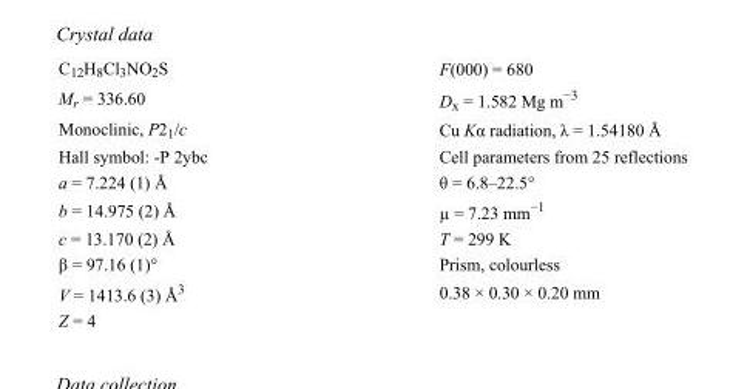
<table><tbody><tr><td>C<sub>12</sub>H<sub>8</sub>Cl<sub>3</sub>NO<sub>2</sub>S</td><td>F(000) = 680</td></tr><tr><td>M<sub>r</sub> = 336.60</td><td>D<sub>x</sub> = 1.582 Mg m<sup>−3</sup></td></tr><tr><td>Monoclinic, P2<sub>1</sub>/c</td><td>Cu Kα radiation, λ = 1.54180 Å</td></tr><tr><td>Hall symbol: -P 2ybc</td><td>Cell parameters from 25 reflections</td></tr><tr><td>a = 7.224 (1) Å</td><td>θ = 6.8–22.5°</td></tr><tr><td>b = 14.975 (2) Å</td><td>µ = 7.23 mm<sup>−1</sup></td></tr><tr><td>c = 13.170 (2) Å</td><td>T = 299 K</td></tr><tr><td>β = 97.16 (1)°</td><td>Prism, colourless</td></tr><tr><td>V = 1413.6 (3) Å<sup>3</sup></td><td>0.38 × 0.30 × 0.20 mm</td></tr><tr><td>Z = 4</td><td></td></tr></tbody></table>